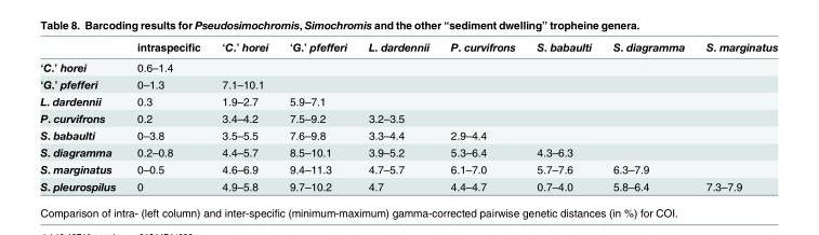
<table><thead><tr><td></td><td>intraspecific</td><td>‘C.’ horei</td><td>‘G.’ pfefferi</td><td>L. dardennii</td><td>P. curvifrons</td><td>S. babaulti</td><td>S. diagramma</td><td>S. marginatus</td></tr></thead><tbody><tr><td>‘C.’ horei</td><td>0.6–1.4</td><td></td><td></td><td></td><td></td><td></td><td></td><td></td></tr><tr><td>‘G.’ pfefferi</td><td>0–1.3</td><td>7.1–10.1</td><td></td><td></td><td></td><td></td><td></td><td></td></tr><tr><td>L. dardennii</td><td>0.3</td><td>1.9–2.7</td><td>5.9–7.1</td><td></td><td></td><td></td><td></td><td></td></tr><tr><td>P. curvifrons</td><td>0.2</td><td>3.4–4.2</td><td>7.5–9.2</td><td>3.2–3.5</td><td></td><td></td><td></td><td></td></tr><tr><td>S. babaulti</td><td>0–3.8</td><td>3.5–5.5</td><td>7.6–9.8</td><td>3.3–4.4</td><td>2.9–4.4</td><td></td><td></td><td></td></tr><tr><td>S. diagramma</td><td>0.2–0.8</td><td>4.4–5.7</td><td>8.5–10.1</td><td>3.9–5.2</td><td>5.3–6.4</td><td>4.3–6.3</td><td></td><td></td></tr><tr><td>S. marginatus</td><td>0–0.5</td><td>4.6–6.9</td><td>9.4–11.3</td><td>4.7–5.7</td><td>6.1–7.0</td><td>5.7–7.6</td><td>6.3–7.9</td><td></td></tr><tr><td>S. pleurospilus</td><td>0</td><td>4.9–5.8</td><td>9.7–10.2</td><td>4.7</td><td>4.4–4.7</td><td>0.7–4.0</td><td>5.8–6.4</td><td>7.3–7.9</td></tr></tbody></table>